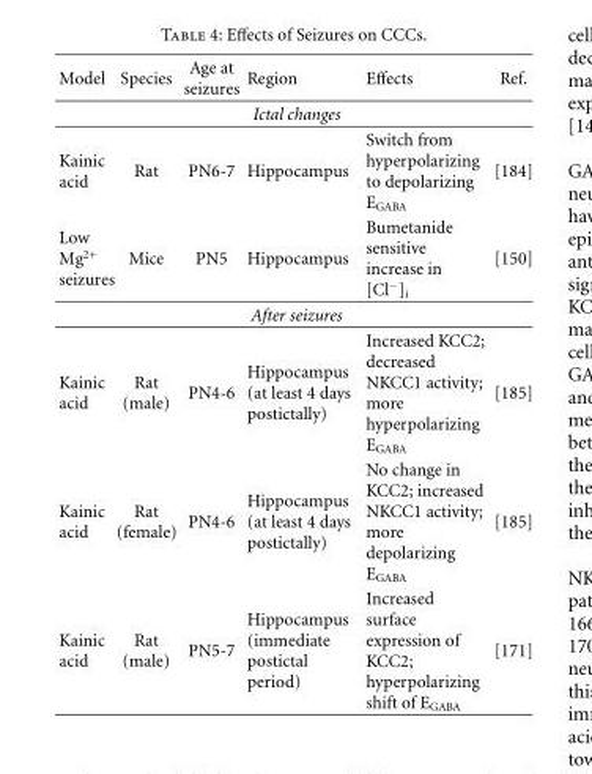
<table><thead><tr><td>Model</td><td>Species</td><td>Age at seizures</td><td>Region</td><td>Effects</td><td>Ref.</td></tr></thead><tbody><tr><td colspan="6">Ictal changes</td></tr><tr><td>Kainic acid</td><td>Rat</td><td>PN6-7</td><td>Hippocampus</td><td>Switch from hyperpolarizing to depolarizing E<sub>GABA</sub></td><td>[184]</td></tr><tr><td>Low Mg<sup>2+</sup> seizures</td><td>Mice</td><td>PN5</td><td>Hippocampus</td><td>Bumetanide sensitive increase in [Cl<sup>−</sup>]<sub>i</sub></td><td>[150]</td></tr><tr><td colspan="6">After seizures</td></tr><tr><td>Kainic acid</td><td>Rat (male)</td><td>PN4-6</td><td>Hippocampus (at least 4 days postictally)</td><td>Increased KCC2; decreased NKCC1 activity; more hyperpolarizing E<sub>GABA</sub></td><td>[185]</td></tr><tr><td>Kainic acid</td><td>Rat (female)</td><td>PN4-6</td><td>Hippocampus (at least 4 days postictally)</td><td>No change in KCC2; increased NKCC1 activity; more depolarizing E<sub>GABA</sub></td><td>[185]</td></tr><tr><td>Kainic acid</td><td>Rat (male)</td><td>PN5-7</td><td>Hippocampus (immediate postictal period)</td><td>Increased surface expression of KCC2; hyperpolarizing shift of E<sub>GABA</sub></td><td>[171]</td></tr></tbody></table>